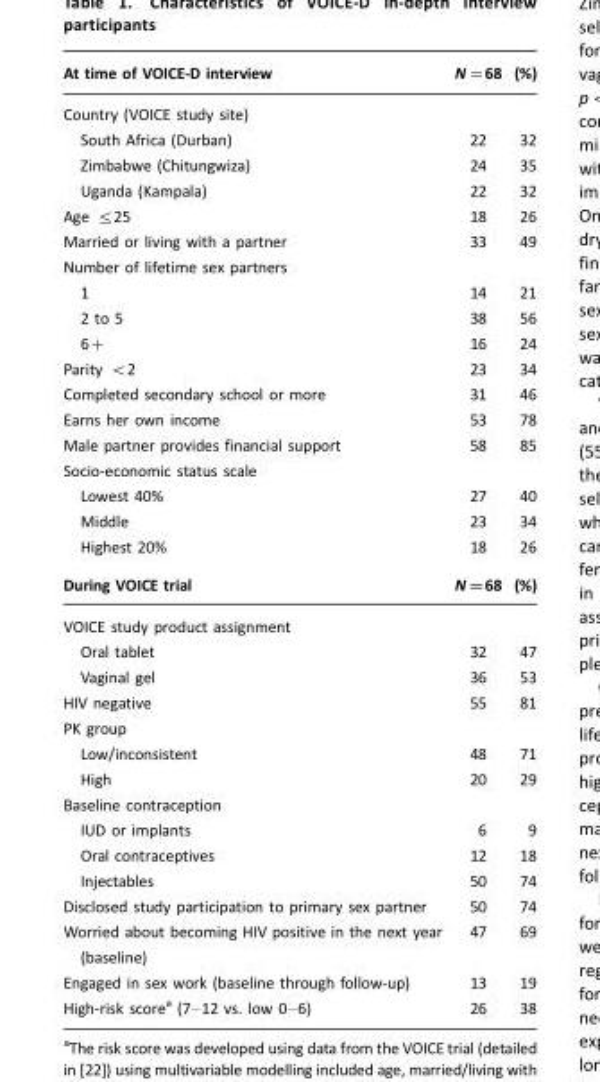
<table><thead><tr><td>At time of VOICE-D interview</td><td>N=68</td><td>(%)</td></tr></thead><tbody><tr><td colspan="3">Country (VOICE study site)</td></tr><tr><td>South Africa (Durban)</td><td>22</td><td>32</td></tr><tr><td>Zimbabwe (Chitungwiza)</td><td>24</td><td>35</td></tr><tr><td>Uganda (Kampala)</td><td>22</td><td>32</td></tr><tr><td>Age ≤25</td><td>18</td><td>26</td></tr><tr><td>Married or living with a partner</td><td>33</td><td>49</td></tr><tr><td colspan="3">Number of lifetime sex partners</td></tr><tr><td>1</td><td>14</td><td>21</td></tr><tr><td>2 to 5</td><td>38</td><td>56</td></tr><tr><td>6+</td><td>16</td><td>24</td></tr><tr><td>Parity &lt;2</td><td>23</td><td>34</td></tr><tr><td>Completed secondary school or more</td><td>31</td><td>46</td></tr><tr><td>Earns her own income</td><td>53</td><td>78</td></tr><tr><td>Male partner provides financial support</td><td>58</td><td>85</td></tr><tr><td colspan="3">Socio-economic status scale</td></tr><tr><td>Lowest 40%</td><td>27</td><td>40</td></tr><tr><td>Middle</td><td>23</td><td>34</td></tr><tr><td>Highest 20%</td><td>18</td><td>26</td></tr><tr><td>During VOICE trial</td><td>N=68</td><td>(%)</td></tr><tr><td colspan="3">VOICE study product assignment</td></tr><tr><td>Oral tablet</td><td>32</td><td>47</td></tr><tr><td>Vaginal gel</td><td>36</td><td>53</td></tr><tr><td>HIV negative</td><td>55</td><td>81</td></tr><tr><td colspan="3">PK group</td></tr><tr><td>Low/inconsistent</td><td>48</td><td>71</td></tr><tr><td>High</td><td>20</td><td>29</td></tr><tr><td colspan="3">Baseline contraception</td></tr><tr><td>IUD or implants</td><td>6</td><td>9</td></tr><tr><td>Oral contraceptives</td><td>12</td><td>18</td></tr><tr><td>Injectables</td><td>50</td><td>74</td></tr><tr><td>Disclosed study participation to primary sex partner</td><td>50</td><td>74</td></tr><tr><td>Worried about becoming HIV positive in the next year (baseline)</td><td>47</td><td>69</td></tr><tr><td>Engaged in sex work (baseline through follow-up)</td><td>13</td><td>19</td></tr><tr><td>High-risk score<sup>a</sup> (7–12 vs. low 0–6)</td><td>26</td><td>38</td></tr></tbody></table>